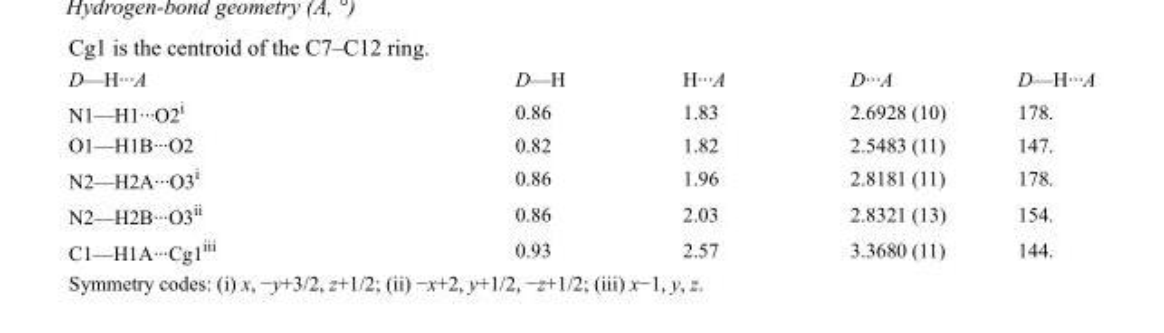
<table><tbody><tr><td>D—H···A</td><td>D—H</td><td>H···A</td><td>D···A</td><td>D—H···A</td></tr><tr><td>N1—H1···O2<sup>i</sup></td><td>0.86</td><td>1.83</td><td>2.6928 (10)</td><td>178.</td></tr><tr><td>O1—H1B···O2</td><td>0.82</td><td>1.82</td><td>2.5483 (11)</td><td>147.</td></tr><tr><td>N2—H2A···O3<sup>i</sup></td><td>0.86</td><td>1.96</td><td>2.8181 (11)</td><td>178.</td></tr><tr><td>N2—H2B···O3<sup>ii</sup></td><td>0.86</td><td>2.03</td><td>2.8321 (13)</td><td>154.</td></tr><tr><td>C1—H1A···Cg1<sup>iii</sup></td><td>0.93</td><td>2.57</td><td>3.3680 (11)</td><td>144.</td></tr></tbody></table>